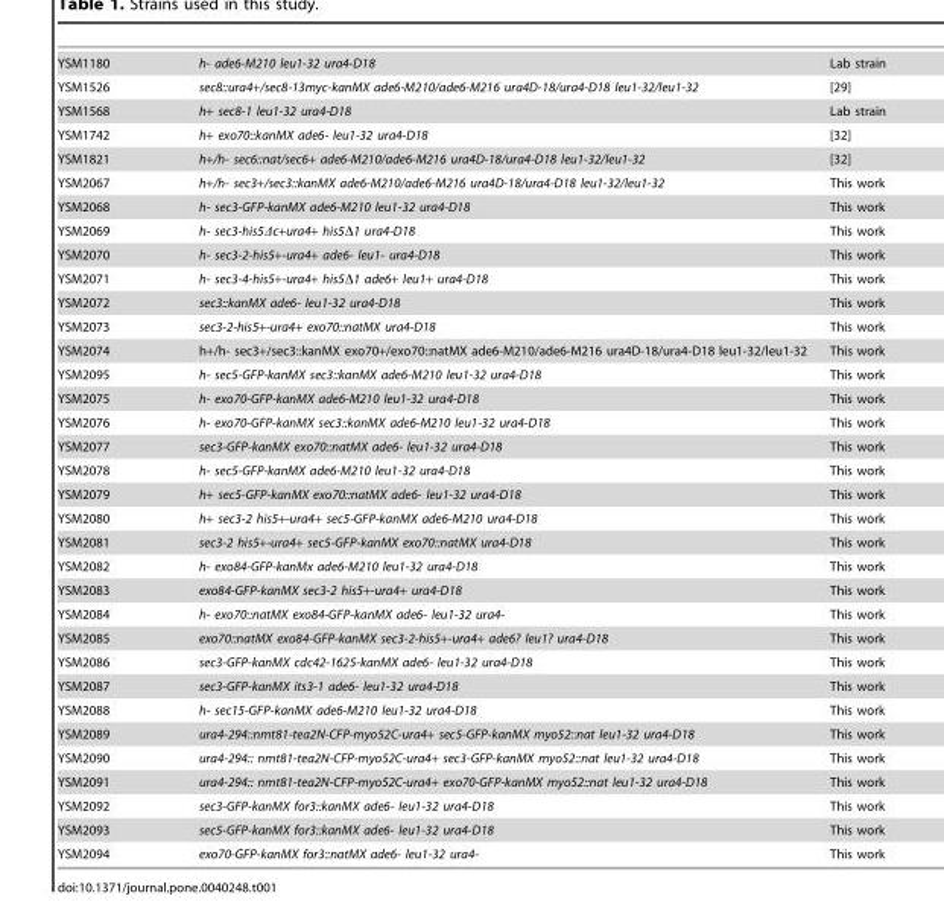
<table><tbody><tr><td>YSM1180</td><td>h- ade6-M210 leu1-32 ura4-D18</td><td>Lab strain</td></tr><tr><td>YSM1526</td><td>sec8::ura4+/sec8-13myc-kanMX ade6-M210/ade6-M216 ura4D-18/ura4-D18 leu1-32/leu1-32</td><td>[29]</td></tr><tr><td>YSM1568</td><td>h+ sec8-1 leu1-32 ura4-D18</td><td>Lab strain</td></tr><tr><td>YSM1742</td><td>h+ exo70::kanMX ade6- leu1-32 ura4-D18</td><td>[32]</td></tr><tr><td>YSM1821</td><td>h+/h- sec6::nat/sec6+ ade6-M210/ade6-M216 ura4D-18/ura4-D18 leu1-32/leu1-32</td><td>[32]</td></tr><tr><td>YSM2067</td><td>h+/h- sec3+/sec3::kanMX ade6-M210/ade6-M216 ura4D-18/ura4-D18 leu1-32/leu1-32</td><td>This work</td></tr><tr><td>YSM2068</td><td>h- sec3-GFP-kanMX ade6-M210 leu1-32 ura4-D18</td><td>This work</td></tr><tr><td>YSM2069</td><td>h- sec3-his5Δc+ura4+ his5Δ1 ura4-D18</td><td>This work</td></tr><tr><td>YSM2070</td><td>h- sec3-2-his5+-ura4+ ade6- leu1- ura4-D18</td><td>This work</td></tr><tr><td>YSM2071</td><td>h- sec3-4-his5+-ura4+ his5Δ1 ade6+ leu1+ ura4-D18</td><td>This work</td></tr><tr><td>YSM2072</td><td>sec3::kanMX ade6- leu1-32 ura4-D18</td><td>This work</td></tr><tr><td>YSM2073</td><td>sec3-2-his5+-ura4+ exo70::natMX ura4-D18</td><td>This work</td></tr><tr><td>YSM2074</td><td>h+/h- sec3+/sec3::kanMX exo70+/exo70::natMX ade6-M210/ade6-M216 ura4D-18/ura4-D18 leu1-32/leu1-32</td><td>This work</td></tr><tr><td>YSM2095</td><td>h- sec5-GFP-kanMX sec3::kanMX ade6-M210 leu1-32 ura4-D18</td><td>This work</td></tr><tr><td>YSM2075</td><td>h- exo70-GFP-kanMX ade6-M210 leu1-32 ura4-D18</td><td>This work</td></tr><tr><td>YSM2076</td><td>h- exo70-GFP-kanMX sec3::kanMX ade6-M210 leu1-32 ura4-D18</td><td>This work</td></tr><tr><td>YSM2077</td><td>sec3-GFP-kanMX exo70::natMX ade6- leu1-32 ura4-D18</td><td>This work</td></tr><tr><td>YSM2078</td><td>h- sec5-GFP-kanMX ade6-M210 leu1-32 ura4-D18</td><td>This work</td></tr><tr><td>YSM2079</td><td>h+ sec5-GFP-kanMX exo70::natMX ade6- leu1-32 ura4-D18</td><td>This work</td></tr><tr><td>YSM2080</td><td>h+ sec3-2 his5+-ura4+ sec5-GFP-kanMX ade6-M210 ura4-D18</td><td>This work</td></tr><tr><td>YSM2081</td><td>sec3-2 his5+-ura4+ sec5-GFP-kanMX exo70::natMX ura4-D18</td><td>This work</td></tr><tr><td>YSM2082</td><td>h- exo84-GFP-kanMx ade6-M210 leu1-32 ura4-D18</td><td>This work</td></tr><tr><td>YSM2083</td><td>exo84-GFP-kanMX sec3-2 his5+-ura4+ ura4-D18</td><td>This work</td></tr><tr><td>YSM2084</td><td>h- exo70::natMX exo84-GFP-kanMX ade6- leu1-32 ura4-</td><td>This work</td></tr><tr><td>YSM2085</td><td>exo70::natMX exo84-GFP-kanMX sec3-2-his5+-ura4+ ade6? leu1? ura4-D18</td><td>This work</td></tr><tr><td>YSM2086</td><td>sec3-GFP-kanMX cdc42-1625-kanMX ade6- leu1-32 ura4-D18</td><td>This work</td></tr><tr><td>YSM2087</td><td>sec3-GFP-kanMX its3-1 ade6- leu1-32 ura4-D18</td><td>This work</td></tr><tr><td>YSM2088</td><td>h- sec15-GFP-kanMX ade6-M210 leu1-32 ura4-D18</td><td>This work</td></tr><tr><td>YSM2089</td><td>ura4-294::nmt81-tea2N-CFP-myo52C-ura4+ sec5-GFP-kanMX myo52::nat leu1-32 ura4-D18</td><td>This work</td></tr><tr><td>YSM2090</td><td>ura4-294:: nmt81-tea2N-CFP-myo52C-ura4+ sec3-GFP-kanMX myo52::nat leu1-32 ura4-D18</td><td>This work</td></tr><tr><td>YSM2091</td><td>ura4-294:: nmt81-tea2N-CFP-myo52C-ura4+ exo70-GFP-kanMX myo52::nat leu1-32 ura4-D18</td><td>This work</td></tr><tr><td>YSM2092</td><td>sec3-GFP-kanMX for3::kanMX ade6- leu1-32 ura4-D18</td><td>This work</td></tr><tr><td>YSM2093</td><td>sec5-GFP-kanMX for3::kanMX ade6- leu1-32 ura4-D18</td><td>This work</td></tr><tr><td>YSM2094</td><td>exo70-GFP-kanMX for3::natMX ade6- leu1-32 ura4-</td><td>This work</td></tr></tbody></table>